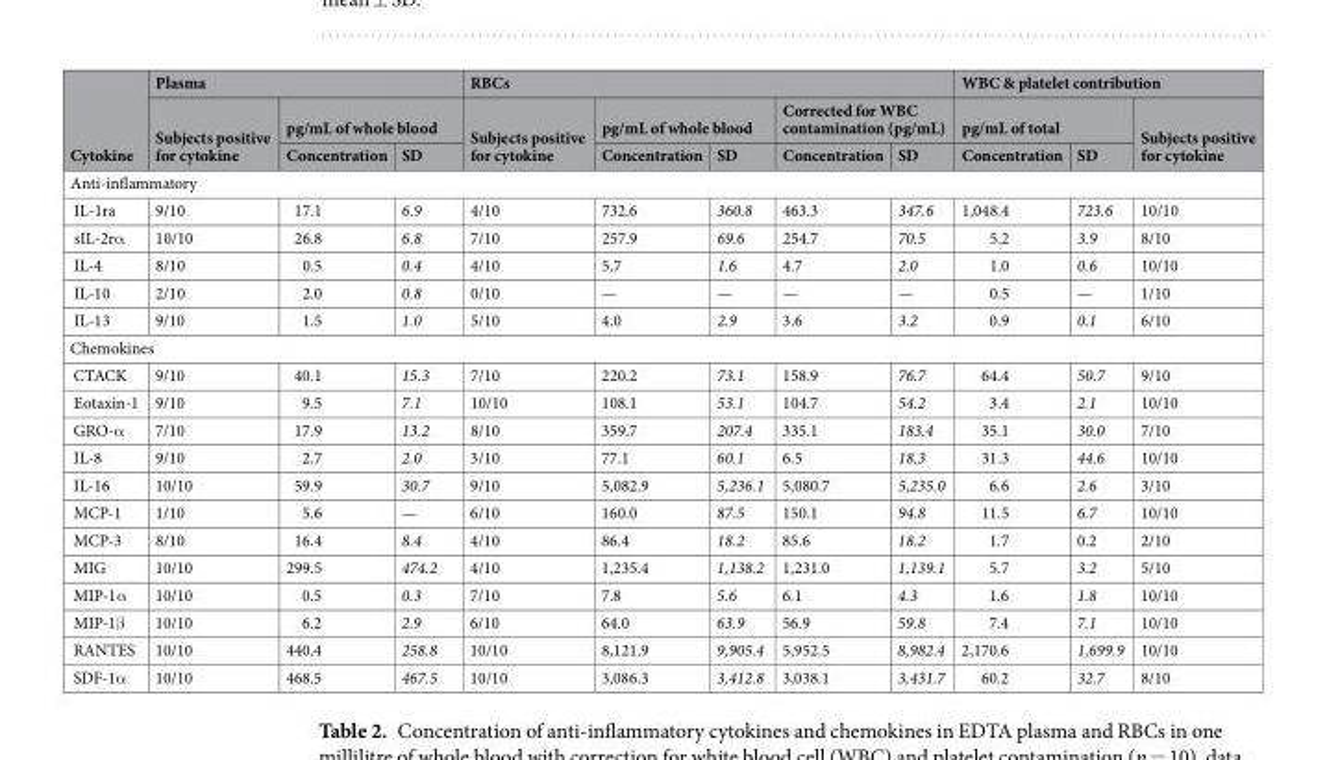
<table><thead><tr><td rowspan="3">Cytokine</td><td colspan="3">Plasma</td><td colspan="5">RBCs</td><td colspan="3">WBC &amp; platelet contribution</td></tr><tr><td rowspan="2">Subjects positive for cytokine</td><td colspan="2">pg/mL of whole blood</td><td rowspan="2">Subjects positive for cytokine</td><td colspan="2">pg/mL of whole blood</td><td colspan="2">Corrected for WBC contamination (pg/mL)</td><td colspan="2">pg/mL of total</td><td rowspan="2">Subjects positive for cytokine</td></tr><tr><td>Concentration</td><td>SD</td><td>Concentration</td><td>SD</td><td>Concentration</td><td>SD</td><td>Concentration</td><td>SD</td></tr></thead><tbody><tr><td colspan="12">Anti-inflammatory</td></tr><tr><td>IL-1ra</td><td>9/10</td><td>17.1</td><td>6.9</td><td>4/10</td><td>732.6</td><td>360.8</td><td>463.3</td><td>347.6</td><td>1,048.4</td><td>723.6</td><td>10/10</td></tr><tr><td>sIL-2rα</td><td>10/10</td><td>26.8</td><td>6.8</td><td>7/10</td><td>257.9</td><td>69.6</td><td>254.7</td><td>70.5</td><td>5.2</td><td>3.9</td><td>8/10</td></tr><tr><td>IL-4</td><td>8/10</td><td>0.5</td><td>0.4</td><td>4/10</td><td>5.7</td><td>1.6</td><td>4.7</td><td>2.0</td><td>1.0</td><td>0.6</td><td>10/10</td></tr><tr><td>IL-10</td><td>2/10</td><td>2.0</td><td>0.8</td><td>0/10</td><td>—</td><td>—</td><td>—</td><td>—</td><td>0.5</td><td>—</td><td>1/10</td></tr><tr><td>IL-13</td><td>9/10</td><td>1.5</td><td>1.0</td><td>5/10</td><td>4.0</td><td>2.9</td><td>3.6</td><td>3.2</td><td>0.9</td><td>0.1</td><td>6/10</td></tr><tr><td colspan="12">Chemokines</td></tr><tr><td>CTACK</td><td>9/10</td><td>40.1</td><td>15.3</td><td>7/10</td><td>220.2</td><td>73.1</td><td>158.9</td><td>76.7</td><td>64.4</td><td>50.7</td><td>9/10</td></tr><tr><td>Eotaxin-1</td><td>9/10</td><td>9.5</td><td>7.1</td><td>10/10</td><td>108.1</td><td>53.1</td><td>104.7</td><td>54.2</td><td>3.4</td><td>2.1</td><td>10/10</td></tr><tr><td>GRO-α</td><td>7/10</td><td>17.9</td><td>13.2</td><td>8/10</td><td>359.7</td><td>207.4</td><td>335.1</td><td>183.4</td><td>35.1</td><td>30.0</td><td>7/10</td></tr><tr><td>IL-8</td><td>9/10</td><td>2.7</td><td>2.0</td><td>3/10</td><td>77.1</td><td>60.1</td><td>6.5</td><td>18.3</td><td>31.3</td><td>44.6</td><td>10/10</td></tr><tr><td>IL-16</td><td>10/10</td><td>59.9</td><td>30.7</td><td>9/10</td><td>5,082.9</td><td>5,236.1</td><td>5,080.7</td><td>5,235.0</td><td>6.6</td><td>2.6</td><td>3/10</td></tr><tr><td>MCP-1</td><td>1/10</td><td>5.6</td><td>—</td><td>6/10</td><td>160.0</td><td>87.5</td><td>150.1</td><td>94.8</td><td>11.5</td><td>6.7</td><td>10/10</td></tr><tr><td>MCP-3</td><td>8/10</td><td>16.4</td><td>8.4</td><td>4/10</td><td>86.4</td><td>18.2</td><td>85.6</td><td>18.2</td><td>1.7</td><td>0.2</td><td>2/10</td></tr><tr><td>MIG</td><td>10/10</td><td>299.5</td><td>474.2</td><td>4/10</td><td>1,235.4</td><td>1,138.2</td><td>1,231.0</td><td>1,139.1</td><td>5.7</td><td>3.2</td><td>5/10</td></tr><tr><td>MIP-1α</td><td>10/10</td><td>0.5</td><td>0.3</td><td>7/10</td><td>7.8</td><td>5.6</td><td>6.1</td><td>4.3</td><td>1.6</td><td>1.8</td><td>10/10</td></tr><tr><td>MIP-1β</td><td>10/10</td><td>6.2</td><td>2.9</td><td>6/10</td><td>64.0</td><td>63.9</td><td>56.9</td><td>59.8</td><td>7.4</td><td>7.1</td><td>10/10</td></tr><tr><td>RANTES</td><td>10/10</td><td>440.4</td><td>258.8</td><td>10/10</td><td>8,121.9</td><td>9,905.4</td><td>5,952.5</td><td>8,982.4</td><td>2,170.6</td><td>1,699.9</td><td>10/10</td></tr><tr><td>SDF-1α</td><td>10/10</td><td>468.5</td><td>467.5</td><td>10/10</td><td>3,086.3</td><td>3,412.8</td><td>3,038.1</td><td>3,431.7</td><td>60.2</td><td>32.7</td><td>8/10</td></tr></tbody></table>